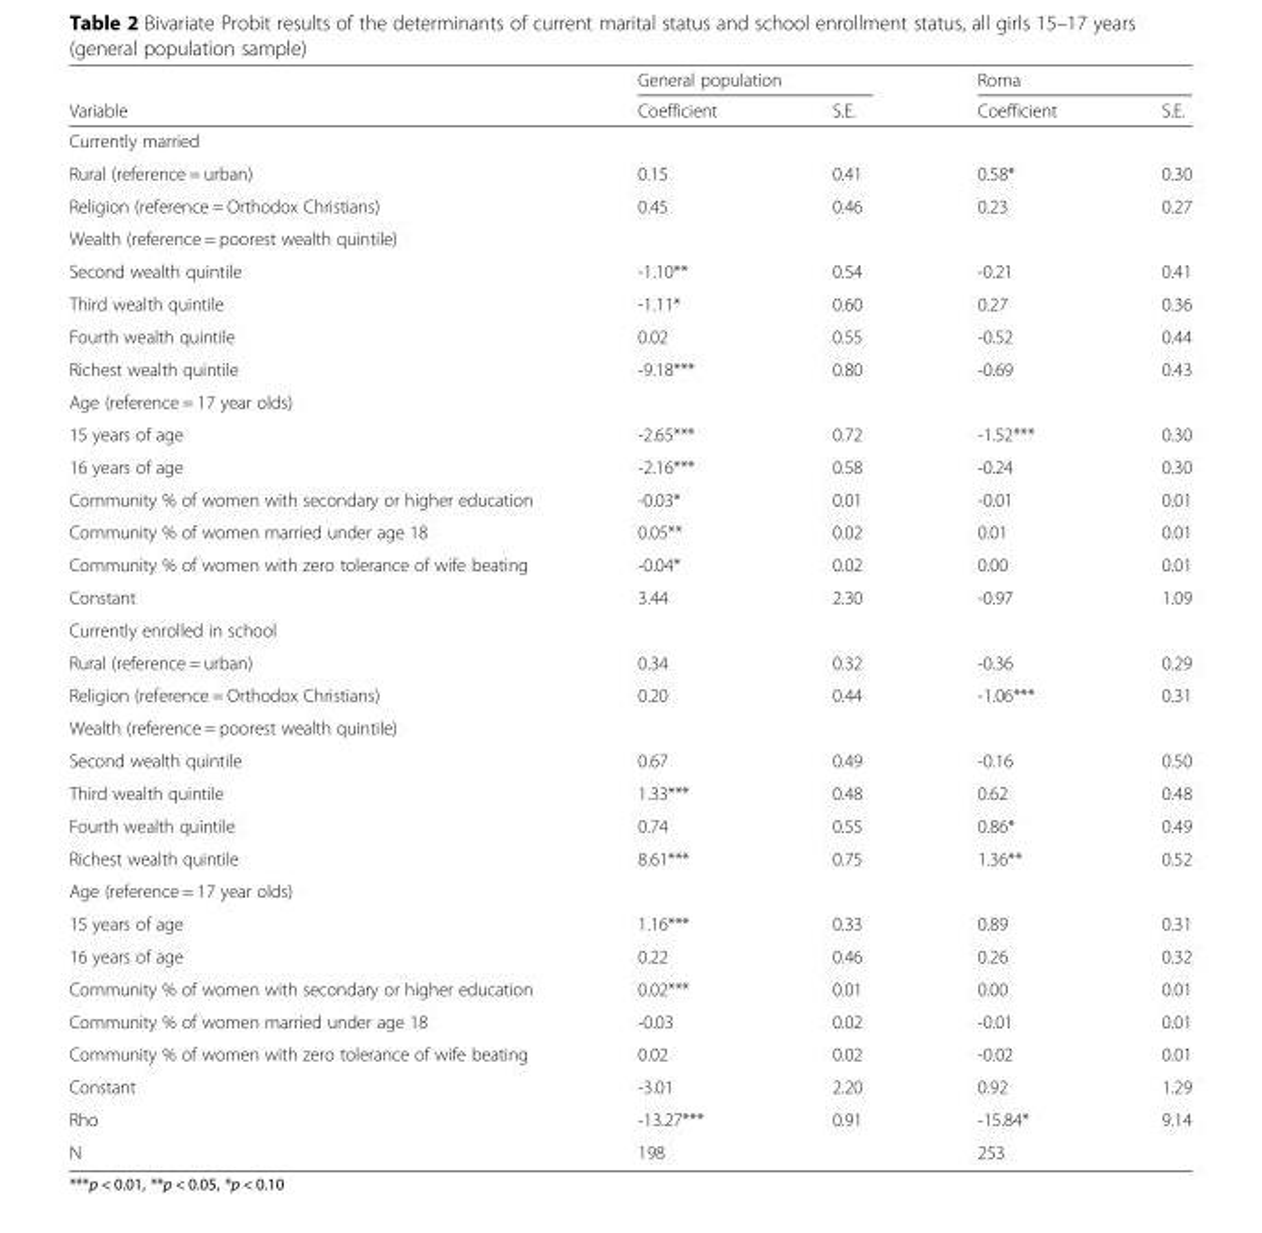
<table><thead><tr><td rowspan="2">Variable</td><td colspan="2">General population</td><td colspan="2">Roma</td></tr><tr><td>Coefficient</td><td>S.E.</td><td>Coefficient</td><td>S.E.</td></tr></thead><tbody><tr><td colspan="5">Currently married</td></tr><tr><td>Rural (reference = urban)</td><td>0.15</td><td>0.41</td><td>0.58*</td><td>0.30</td></tr><tr><td>Religion (reference = Orthodox Christians)</td><td>0.45</td><td>0.46</td><td>0.23</td><td>0.27</td></tr><tr><td colspan="5">Wealth (reference = poorest wealth quintile)</td></tr><tr><td>Second wealth quintile</td><td>-1.10**</td><td>0.54</td><td>-0.21</td><td>0.41</td></tr><tr><td>Third wealth quintile</td><td>-1.11*</td><td>0.60</td><td>0.27</td><td>0.36</td></tr><tr><td>Fourth wealth quintile</td><td>0.02</td><td>0.55</td><td>-0.52</td><td>0.44</td></tr><tr><td>Richest wealth quintile</td><td>-9.18***</td><td>0.80</td><td>-0.69</td><td>0.43</td></tr><tr><td colspan="5">Age (reference = 17 year olds)</td></tr><tr><td>15 years of age</td><td>-2.65***</td><td>0.72</td><td>-1.52***</td><td>0.30</td></tr><tr><td>16 years of age</td><td>-2.16***</td><td>0.58</td><td>-0.24</td><td>0.30</td></tr><tr><td>Community % of women with secondary or higher education</td><td>-0.03*</td><td>0.01</td><td>-0.01</td><td>0.01</td></tr><tr><td>Community % of women married under age 18</td><td>0.05**</td><td>0.02</td><td>0.01</td><td>0.01</td></tr><tr><td>Community % of women with zero tolerance of wife beating</td><td>-0.04*</td><td>0.02</td><td>0.00</td><td>0.01</td></tr><tr><td>Constant</td><td>3.44</td><td>2.30</td><td>-0.97</td><td>1.09</td></tr><tr><td colspan="5">Currently enrolled in school</td></tr><tr><td>Rural (reference = urban)</td><td>0.34</td><td>0.32</td><td>-0.36</td><td>0.29</td></tr><tr><td>Religion (reference = Orthodox Christians)</td><td>0.20</td><td>0.44</td><td>-1.06***</td><td>0.31</td></tr><tr><td colspan="5">Wealth (reference = poorest wealth quintile)</td></tr><tr><td>Second wealth quintile</td><td>0.67</td><td>0.49</td><td>-0.16</td><td>0.50</td></tr><tr><td>Third wealth quintile</td><td>1.33***</td><td>0.48</td><td>0.62</td><td>0.48</td></tr><tr><td>Fourth wealth quintile</td><td>0.74</td><td>0.55</td><td>0.86*</td><td>0.49</td></tr><tr><td>Richest wealth quintile</td><td>8.61***</td><td>0.75</td><td>1.36**</td><td>0.52</td></tr><tr><td colspan="5">Age (reference = 17 year olds)</td></tr><tr><td>15 years of age</td><td>1.16***</td><td>0.33</td><td>0.89</td><td>0.31</td></tr><tr><td>16 years of age</td><td>0.22</td><td>0.46</td><td>0.26</td><td>0.32</td></tr><tr><td>Community % of women with secondary or higher education</td><td>0.02***</td><td>0.01</td><td>0.00</td><td>0.01</td></tr><tr><td>Community % of women married under age 18</td><td>-0.03</td><td>0.02</td><td>-0.01</td><td>0.01</td></tr><tr><td>Community % of women with zero tolerance of wife beating</td><td>0.02</td><td>0.02</td><td>-0.02</td><td>0.01</td></tr><tr><td>Constant</td><td>-3.01</td><td>2.20</td><td>0.92</td><td>1.29</td></tr><tr><td>Rho</td><td>-13.27***</td><td>0.91</td><td>-15.84*</td><td>9.14</td></tr><tr><td>N</td><td>198</td><td></td><td>253</td><td></td></tr></tbody></table>